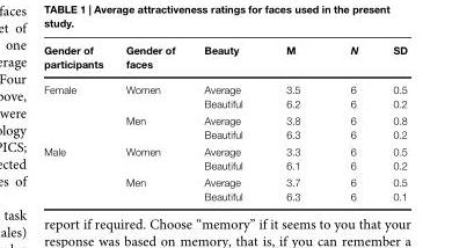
<table><thead><tr><td>Gender of participants</td><td>Gender of faces</td><td>Beauty</td><td>M</td><td>N</td><td>SD</td></tr></thead><tbody><tr><td rowspan="2">Female</td><td>Women</td><td>Average Beautiful</td><td>3.5 6.2</td><td>6 6</td><td>0.5 0.2</td></tr><tr><td>Men</td><td>Average Beautiful</td><td>3.8 6.3</td><td>6 6</td><td>0.8 0.2</td></tr><tr><td rowspan="2">Male</td><td>Women</td><td>Average Beautiful</td><td>3.3 6.1</td><td>6 6</td><td>0.5 0.2</td></tr><tr><td>Men</td><td>Average Beautiful</td><td>3.7 6.3</td><td>6 6</td><td>0.5 0.1</td></tr></tbody></table>